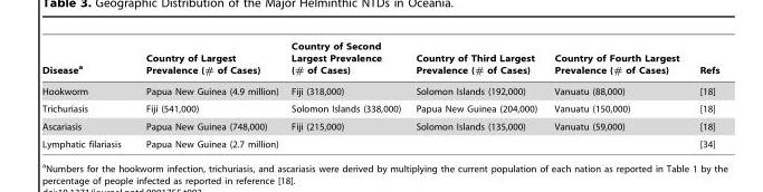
<table><thead><tr><td>Disease<sup>a</sup></td><td>Country of Largest Prevalence (# of Cases)</td><td>Country of Second Largest Prevalence (# of Cases)</td><td>Country of Third Largest Prevalence (# of Cases)</td><td>Country of Fourth Largest Prevalence (# of Cases)</td><td>Refs</td></tr></thead><tbody><tr><td>Hookworm</td><td>Papua New Guinea (4.9 million)</td><td>Fiji (318,000)</td><td>Solomon Islands (192,000)</td><td>Vanuatu (88,000)</td><td>[18]</td></tr><tr><td>Trichuriasis</td><td>Fiji (541,000)</td><td>Solomon Islands (338,000)</td><td>Papua New Guinea (204,000)</td><td>Vanuatu (150,000)</td><td>[18]</td></tr><tr><td>Ascariasis</td><td>Papua New Guinea (748,000)</td><td>Fiji (215,000)</td><td>Solomon Islands (135,000)</td><td>Vanuatu (59,000)</td><td>[18]</td></tr><tr><td>Lymphatic filariasis</td><td>Papua New Guinea (2.7 million)</td><td></td><td></td><td></td><td>[34]</td></tr></tbody></table>